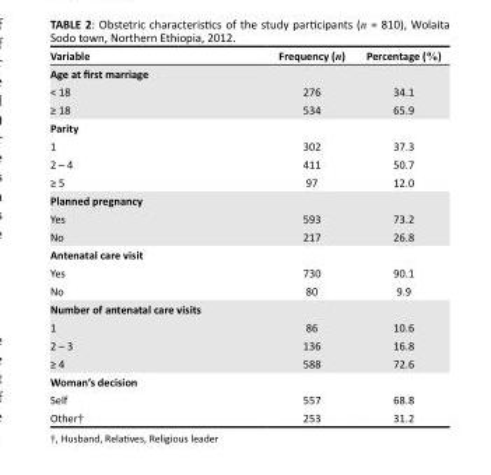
<table><thead><tr><td>Variable</td><td>Frequency (n)</td><td>Percentage (%)</td></tr></thead><tbody><tr><td colspan="3">Age at first marriage</td></tr><tr><td>&lt; 18</td><td>276</td><td>34.1</td></tr><tr><td>≥ 18</td><td>534</td><td>65.9</td></tr><tr><td colspan="3">Parity</td></tr><tr><td>1</td><td>302</td><td>37.3</td></tr><tr><td>2 – 4</td><td>411</td><td>50.7</td></tr><tr><td>≥ 5</td><td>97</td><td>12.0</td></tr><tr><td colspan="3">Planned pregnancy</td></tr><tr><td>Yes</td><td>593</td><td>73.2</td></tr><tr><td>No</td><td>217</td><td>26.8</td></tr><tr><td colspan="3">Antenatal care visit</td></tr><tr><td>Yes</td><td>730</td><td>90.1</td></tr><tr><td>No</td><td>80</td><td>9.9</td></tr><tr><td colspan="3">Number of antenatal care visits</td></tr><tr><td>1</td><td>86</td><td>10.6</td></tr><tr><td>2 – 3</td><td>136</td><td>16.8</td></tr><tr><td>≥ 4</td><td>588</td><td>72.6</td></tr><tr><td colspan="3">Woman’s decision</td></tr><tr><td>Self</td><td>557</td><td>68.8</td></tr><tr><td>Other†</td><td>253</td><td>31.2</td></tr></tbody></table>